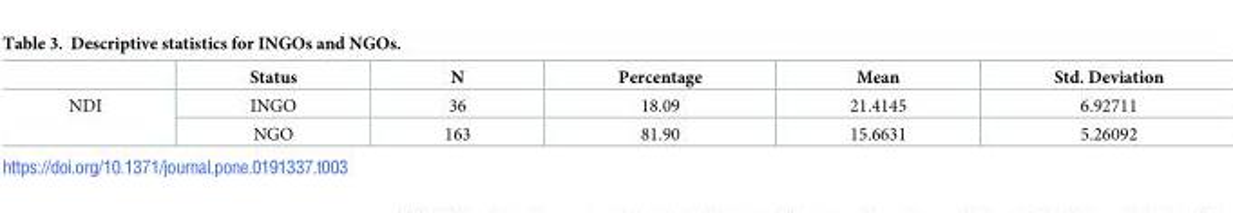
<table><thead><tr><td></td><td>Status</td><td>N</td><td>Percentage</td><td>Mean</td><td>Std. Deviation</td></tr></thead><tbody><tr><td rowspan="2">NDI</td><td>INGO</td><td>36</td><td>18.09</td><td>21.4145</td><td>6.92711</td></tr><tr><td>NGO</td><td>163</td><td>81.90</td><td>15.6631</td><td>5.26092</td></tr></tbody></table>